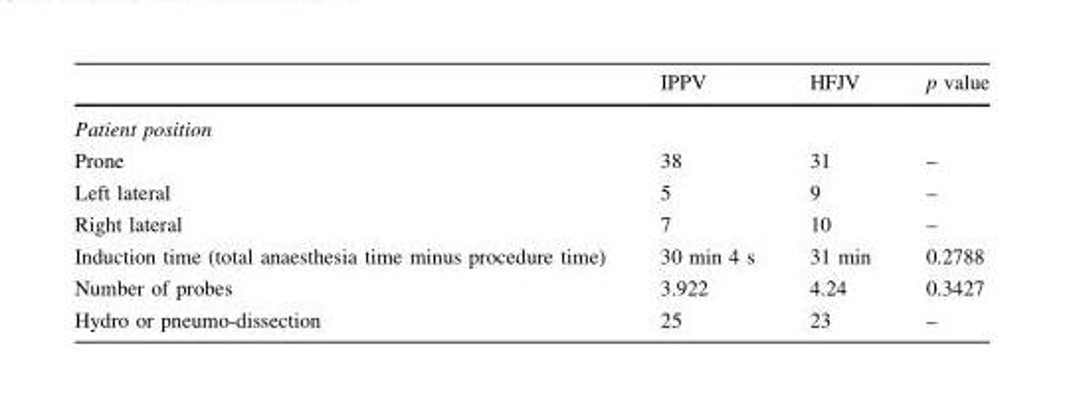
<table><thead><tr><td></td><td>IPPV</td><td>HFJV</td><td>p value</td></tr></thead><tbody><tr><td colspan="4">Patient position</td></tr><tr><td>Prone</td><td>38</td><td>31</td><td>–</td></tr><tr><td>Left lateral</td><td>5</td><td>9</td><td>–</td></tr><tr><td>Right lateral</td><td>7</td><td>10</td><td>–</td></tr><tr><td>Induction time (total anaesthesia time minus procedure time)</td><td>30 min 4 s</td><td>31 min</td><td>0.2788</td></tr><tr><td>Number of probes</td><td>3.922</td><td>4.24</td><td>0.3427</td></tr><tr><td>Hydro or pneumo-dissection</td><td>25</td><td>23</td><td>–</td></tr></tbody></table>